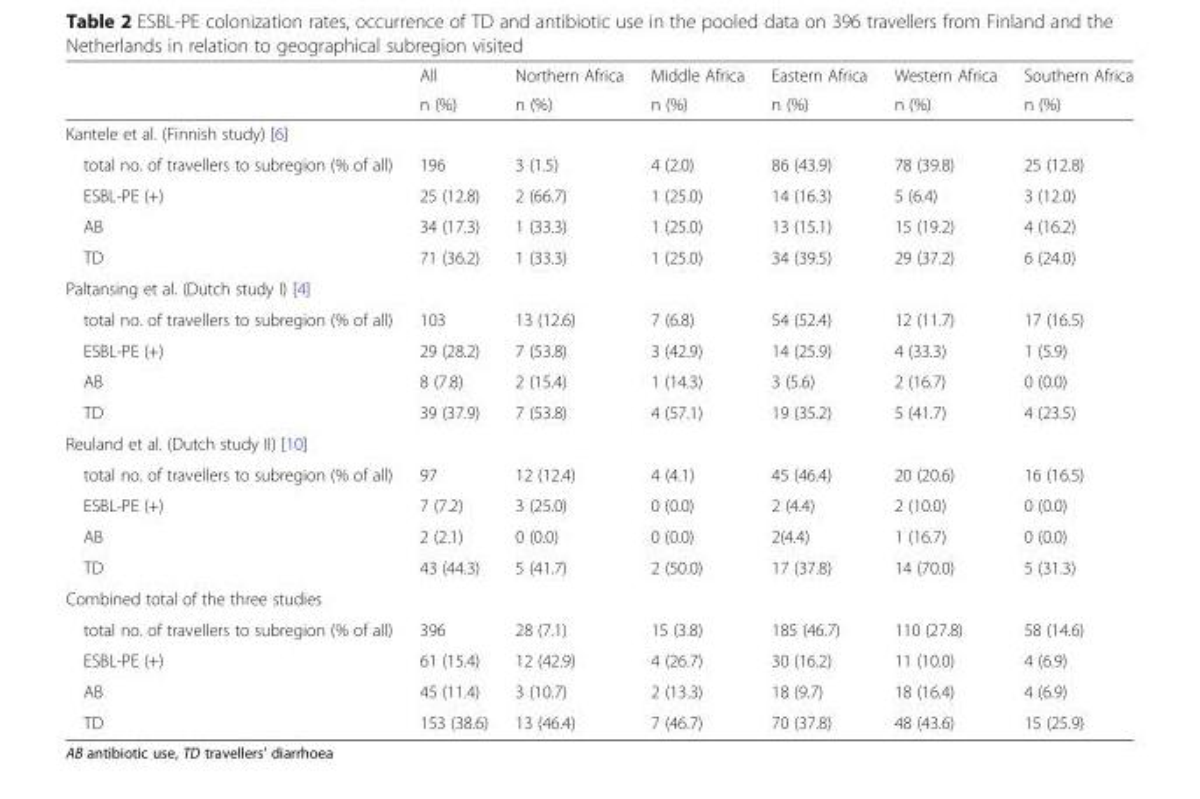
<table><thead><tr><td rowspan="2"></td><td rowspan="2">All n (%)</td><td rowspan="2">Northern Africa n (%)</td><td rowspan="2">Middle Africa n (%)</td><td rowspan="2">Eastern Africa n (%)</td><td rowspan="2">Western Africa n (%)</td><td rowspan="2">Southern Africa n (%)</td></tr><tr></tr></thead><tbody><tr><td colspan="7">Kantele et al. (Finnish study) [6]</td></tr><tr><td>total no. of travellers to subregion (% of all)</td><td>196</td><td>3 (1.5)</td><td>4 (2.0)</td><td>86 (43.9)</td><td>78 (39.8)</td><td>25 (12.8)</td></tr><tr><td>ESBL-PE (+)</td><td>25 (12.8)</td><td>2 (66.7)</td><td>1 (25.0)</td><td>14 (16.3)</td><td>5 (6.4)</td><td>3 (12.0)</td></tr><tr><td>AB</td><td>34 (17.3)</td><td>1 (33.3)</td><td>1 (25.0)</td><td>13 (15.1)</td><td>15 (19.2)</td><td>4 (16.2)</td></tr><tr><td>TD</td><td>71 (36.2)</td><td>1 (33.3)</td><td>1 (25.0)</td><td>34 (39.5)</td><td>29 (37.2)</td><td>6 (24.0)</td></tr><tr><td colspan="7">Paltansing et al. (Dutch study I) [4]</td></tr><tr><td>total no. of travellers to subregion (% of all)</td><td>103</td><td>13 (12.6)</td><td>7 (6.8)</td><td>54 (52.4)</td><td>12 (11.7)</td><td>17 (16.5)</td></tr><tr><td>ESBL-PE (+)</td><td>29 (28.2)</td><td>7 (53.8)</td><td>3 (42.9)</td><td>14 (25.9)</td><td>4 (33.3)</td><td>1 (5.9)</td></tr><tr><td>AB</td><td>8 (7.8)</td><td>2 (15.4)</td><td>1 (14.3)</td><td>3 (5.6)</td><td>2 (16.7)</td><td>0 (0.0)</td></tr><tr><td>TD</td><td>39 (37.9)</td><td>7 (53.8)</td><td>4 (57.1)</td><td>19 (35.2)</td><td>5 (41.7)</td><td>4 (23.5)</td></tr><tr><td colspan="7">Reuland et al. (Dutch study II) [10]</td></tr><tr><td>total no. of travellers to subregion (% of all)</td><td>97</td><td>12 (12.4)</td><td>4 (4.1)</td><td>45 (46.4)</td><td>20 (20.6)</td><td>16 (16.5)</td></tr><tr><td>ESBL-PE (+)</td><td>7 (7.2)</td><td>3 (25.0)</td><td>0 (0.0)</td><td>2 (4.4)</td><td>2 (10.0)</td><td>0 (0.0)</td></tr><tr><td>AB</td><td>2 (2.1)</td><td>0 (0.0)</td><td>0 (0.0)</td><td>2(4.4)</td><td>1 (16.7)</td><td>0 (0.0)</td></tr><tr><td>TD</td><td>43 (44.3)</td><td>5 (41.7)</td><td>2 (50.0)</td><td>17 (37.8)</td><td>14 (70.0)</td><td>5 (31.3)</td></tr><tr><td colspan="7">Combined total of the three studies</td></tr><tr><td>total no. of travellers to subregion (% of all)</td><td>396</td><td>28 (7.1)</td><td>15 (3.8)</td><td>185 (46.7)</td><td>110 (27.8)</td><td>58 (14.6)</td></tr><tr><td>ESBL-PE (+)</td><td>61 (15.4)</td><td>12 (42.9)</td><td>4 (26.7)</td><td>30 (16.2)</td><td>11 (10.0)</td><td>4 (6.9)</td></tr><tr><td>AB</td><td>45 (11.4)</td><td>3 (10.7)</td><td>2 (13.3)</td><td>18 (9.7)</td><td>18 (16.4)</td><td>4 (6.9)</td></tr><tr><td>TD</td><td>153 (38.6)</td><td>13 (46.4)</td><td>7 (46.7)</td><td>70 (37.8)</td><td>48 (43.6)</td><td>15 (25.9)</td></tr></tbody></table>